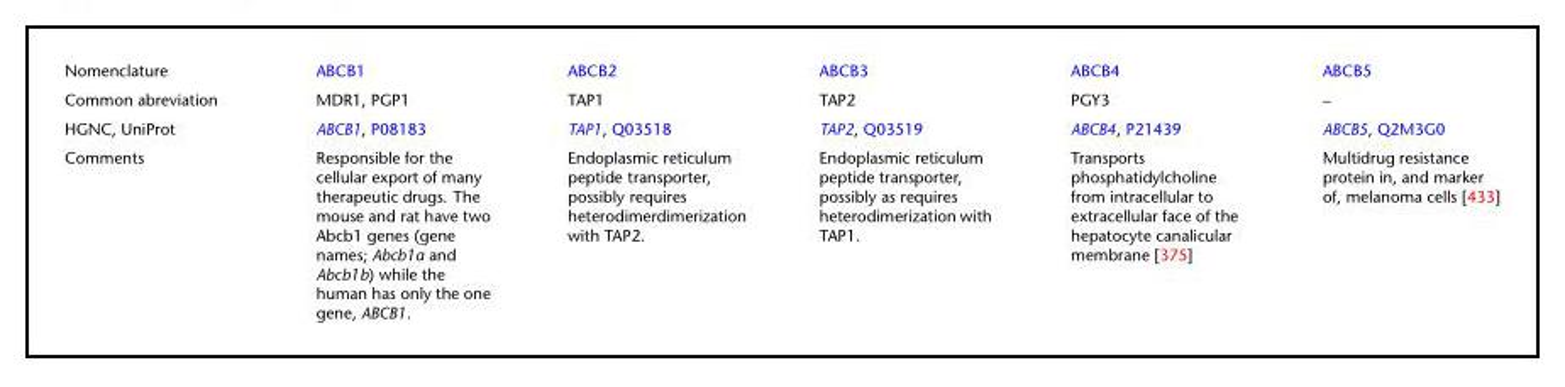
<table><tbody><tr><td>Nomenclature</td><td>ABCB1</td><td>ABCB2</td><td>ABCB3</td><td>ABCB4</td><td>ABCB5</td></tr><tr><td>Common abreviation</td><td>MDR1, PGP1</td><td>TAP1</td><td>TAP2</td><td>PGY3</td><td>–</td></tr><tr><td>HGNC, UniProt</td><td>ABCB1, P08183</td><td>TAP1, Q03518</td><td>TAP2, Q03519</td><td>ABCB4, P21439</td><td>ABCB5, Q2M3G0</td></tr><tr><td>Comments</td><td>Responsible for the cellular export of many therapeutic drugs. The mouse and rat have two Abcb1 genes (gene names; Abcb1a and Abcb1b) while the human has only the one gene, ABCB1.</td><td>Endoplasmic reticulum peptide transporter, possibly requires heterodimerdimerization with TAP2.</td><td>Endoplasmic reticulum peptide transporter, possibly as requires heterodimerization with TAP1.</td><td>Transports phosphatidylcholine from intracellular to extracellular face of the hepatocyte canalicular membrane [375]</td><td>Multidrug resistance protein in, and marker of, melanoma cells [433]</td></tr></tbody></table>